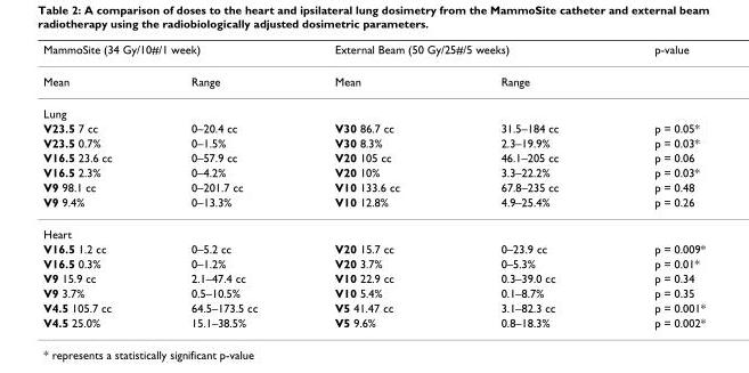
<table><thead><tr><td colspan="2">MammoSite (34 Gy/10#/1 week)</td><td colspan="2">External Beam (50 Gy/25#/5 weeks)</td><td rowspan="2">p-value</td></tr><tr><td>Mean</td><td>Range</td><td>Mean</td><td>Range</td></tr></thead><tbody><tr><td colspan="5">Lung</td></tr><tr><td>V23.5 7 cc</td><td>0–20.4 cc</td><td>V30 86.7 cc</td><td>31.5–184 cc</td><td>p = 0.05*</td></tr><tr><td>V23.5 0.7%</td><td>0–1.5%</td><td>V30 8.3%</td><td>2.3–19.9%</td><td>p = 0.03*</td></tr><tr><td>V16.5 23.6 cc</td><td>0–57.9 cc</td><td>V20 105 cc</td><td>46.1–205 cc</td><td>p = 0.06</td></tr><tr><td>V16.5 2.3%</td><td>0–4.2%</td><td>V20 10%</td><td>3.3–22.2%</td><td>p = 0.03*</td></tr><tr><td>V9 98.1 cc</td><td>0–201.7 cc</td><td>V10 133.6 cc</td><td>67.8–235 cc</td><td>p = 0.48</td></tr><tr><td>V9 9.4%</td><td>0–13.3%</td><td>V10 12.8%</td><td>4.9–25.4%</td><td>p = 0.26</td></tr><tr><td colspan="5">Heart</td></tr><tr><td>V16.5 1.2 cc</td><td>0–5.2 cc</td><td>V20 15.7 cc</td><td>0–23.9 cc</td><td>p = 0.009*</td></tr><tr><td>V16.5 0.3%</td><td>0–1.2%</td><td>V20 3.7%</td><td>0–5.3%</td><td>p = 0.01*</td></tr><tr><td>V9 15.9 cc</td><td>2.1–47.4 cc</td><td>V10 22.9 cc</td><td>0.3–39.0 cc</td><td>p = 0.34</td></tr><tr><td>V9 3.7%</td><td>0.5–10.5%</td><td>V10 5.4%</td><td>0.1–8.7%</td><td>p = 0.35</td></tr><tr><td>V4.5 105.7 cc</td><td>64.5–173.5 cc</td><td>V5 41.47 cc</td><td>3.1–82.3 cc</td><td>p = 0.001*</td></tr><tr><td>V4.5 25.0%</td><td>15.1–38.5%</td><td>V5 9.6%</td><td>0.8–18.3%</td><td>p = 0.002*</td></tr></tbody></table>